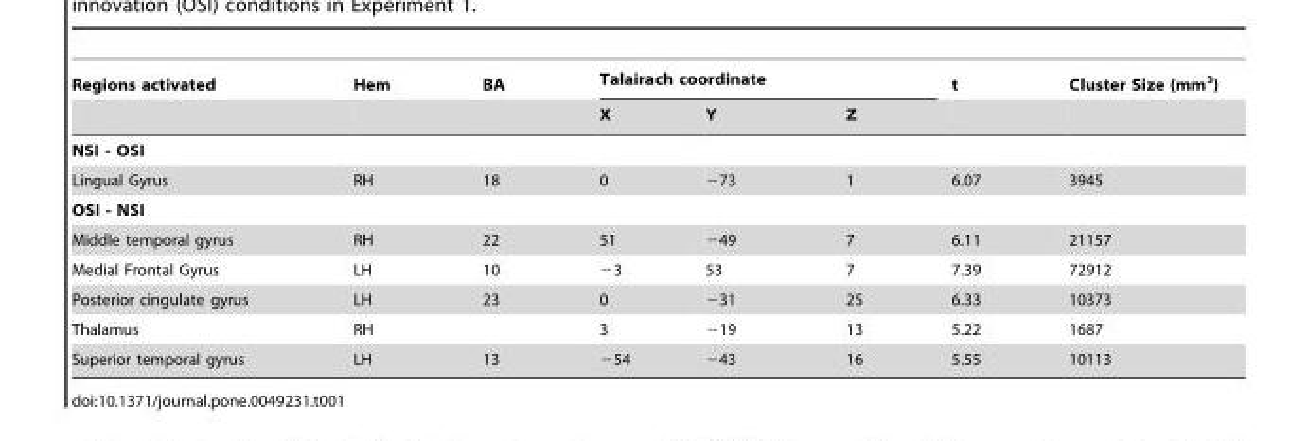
<table><thead><tr><td rowspan="2">Regions activated</td><td rowspan="2">Hem</td><td rowspan="2">BA</td><td colspan="3">Talairach coordinate</td><td rowspan="2">t</td><td rowspan="2">Cluster Size (mm<sup>3</sup>)</td></tr><tr><td>X</td><td>Y</td><td>Z</td></tr></thead><tbody><tr><td colspan="8">NSI - OSI</td></tr><tr><td>Lingual Gyrus</td><td>RH</td><td>18</td><td>0</td><td>−73</td><td>1</td><td>6.07</td><td>3945</td></tr><tr><td colspan="8">OSI - NSI</td></tr><tr><td>Middle temporal gyrus</td><td>RH</td><td>22</td><td>51</td><td>−49</td><td>7</td><td>6.11</td><td>21157</td></tr><tr><td>Medial Frontal Gyrus</td><td>LH</td><td>10</td><td>−3</td><td>53</td><td>7</td><td>7.39</td><td>72912</td></tr><tr><td>Posterior cingulate gyrus</td><td>LH</td><td>23</td><td>0</td><td>−31</td><td>25</td><td>6.33</td><td>10373</td></tr><tr><td>Thalamus</td><td>RH</td><td></td><td>3</td><td>−19</td><td>13</td><td>5.22</td><td>1687</td></tr><tr><td>Superior temporal gyrus</td><td>LH</td><td>13</td><td>−54</td><td>−43</td><td>16</td><td>5.55</td><td>10113</td></tr></tbody></table>